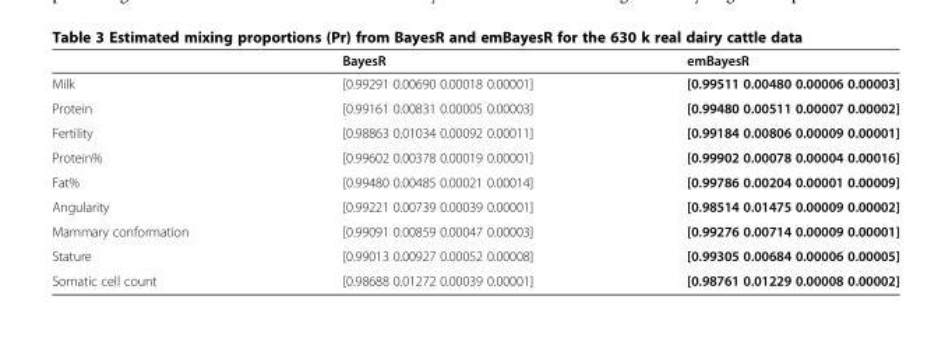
<table><thead><tr><td></td><td>BayesR</td><td>emBayesR</td></tr></thead><tbody><tr><td>Milk</td><td>[0.99291 0.00690 0.00018 0.00001]</td><td>[0.99511 0.00480 0.00006 0.00003]</td></tr><tr><td>Protein</td><td>[0.99161 0.00831 0.00005 0.00003]</td><td>[0.99480 0.00511 0.00007 0.00002]</td></tr><tr><td>Fertility</td><td>[0.98863 0.01034 0.00092 0.00011]</td><td>[0.99184 0.00806 0.00009 0.00001]</td></tr><tr><td>Protein%</td><td>[0.99602 0.00378 0.00019 0.00001]</td><td>[0.99902 0.00078 0.00004 0.00016]</td></tr><tr><td>Fat%</td><td>[0.99480 0.00485 0.00021 0.00014]</td><td>[0.99786 0.00204 0.00001 0.00009]</td></tr><tr><td>Angularity</td><td>[0.99221 0.00739 0.00039 0.00001]</td><td>[0.98514 0.01475 0.00009 0.00002]</td></tr><tr><td>Mammary conformation</td><td>[0.99091 0.00859 0.00047 0.00003]</td><td>[0.99276 0.00714 0.00009 0.00001]</td></tr><tr><td>Stature</td><td>[0.99013 0.00927 0.00052 0.00008]</td><td>[0.99305 0.00684 0.00006 0.00005]</td></tr><tr><td>Somatic cell count</td><td>[0.98688 0.01272 0.00039 0.00001]</td><td>[0.98761 0.01229 0.00008 0.00002]</td></tr></tbody></table>